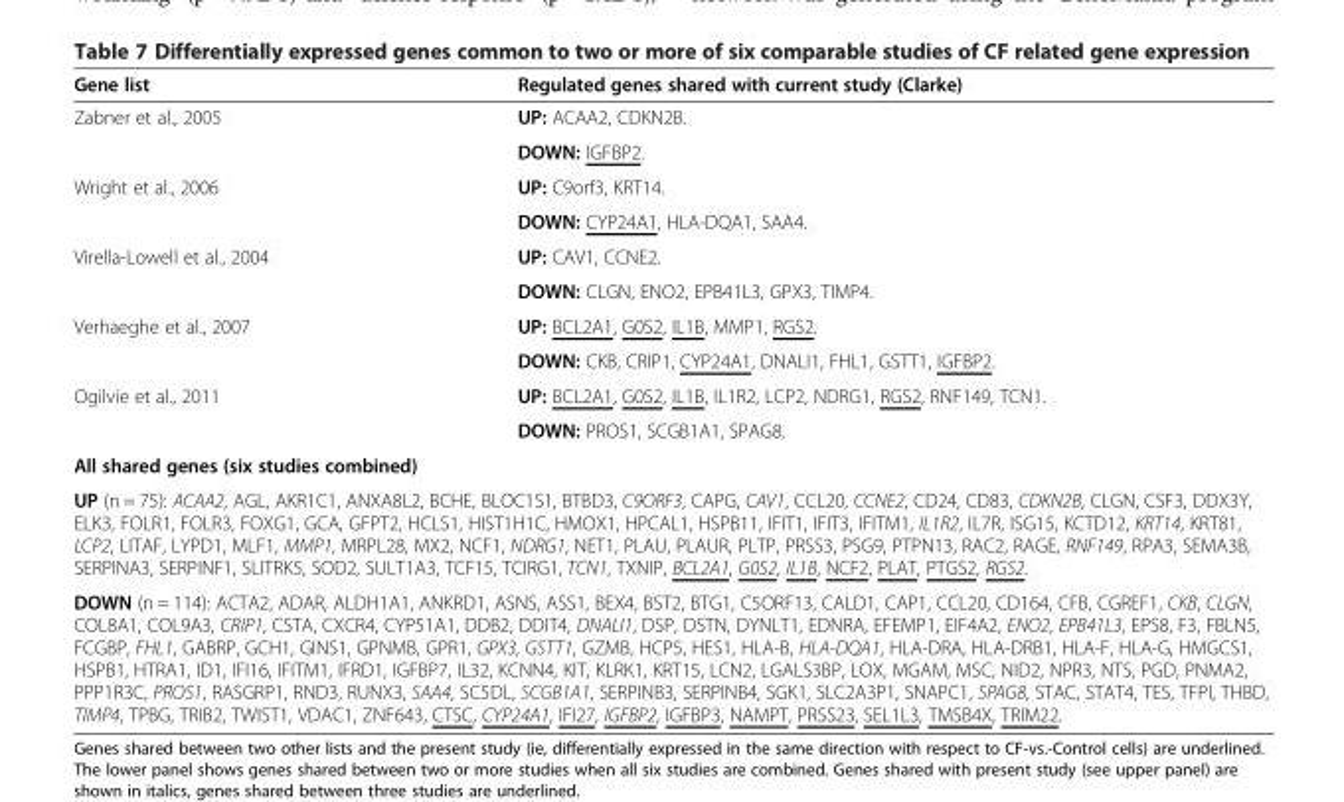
<table><thead><tr><td>Gene list</td><td>Regulated genes shared with current study (Clarke)</td></tr></thead><tbody><tr><td rowspan="2">Zabner et al., 2005</td><td>UP: ACAA2, CDKN2B.</td></tr><tr><td>DOWN: IGFBP2.</td></tr><tr><td rowspan="2">Wright et al., 2006</td><td>UP: C9orf3, KRT14.</td></tr><tr><td>DOWN: CYP24A1, HLA-DQA1, SAA4.</td></tr><tr><td rowspan="2">Virella-Lowell et al., 2004</td><td>UP: CAV1, CCNE2.</td></tr><tr><td>DOWN: CLGN, ENO2, EPB41L3, GPX3, TIMP4.</td></tr><tr><td rowspan="2">Verhaeghe et al., 2007</td><td>UP: BCL2A1, G0S2, IL1B, MMP1, RGS2.</td></tr><tr><td>DOWN: CKB, CRIP1, CYP24A1, DNALI1, FHL1, GSTT1, IGFBP2.</td></tr><tr><td rowspan="2">Ogilvie et al., 2011</td><td>UP: BCL2A1, G0S2, IL1B, IL1R2, LCP2, NDRG1, RGS2, RNF149, TCN1.</td></tr><tr><td>DOWN: PROS1, SCGB1A1, SPAG8.</td></tr><tr><td colspan="2">All shared genes (six studies combined)</td></tr><tr><td colspan="2">UP (n = 75): ACAA2, AGL, AKR1C1, ANXA8L2, BCHE, BLOC1S1, BTBD3, C9ORF3, CAPG, CAV1, CCL20, CCNE2, CD24, CD83, CDKN2B, CLGN, CSF3, DDX3Y, ELK3, FOLR1, FOLR3, FOXG1, GCA, GFPT2, HCLS1, HIST1H1C, HMOX1, HPCAL1, HSPB11, IFIT1, IFIT3, IFITM1, IL1R2, IL7R, ISG15, KCTD12, KRT14, KRT81, LCP2, LITAF, LYPD1, MLF1, MMP1, MRPL28, MX2, NCF1, NDRG1, NET1, PLAU, PLAUR, PLTP, PRSS3, PSG9, PTPN13, RAC2, RAGE, RNF149, RPA3, SEMA3B, SERPINA3, SERPINF1, SLITRK5, SOD2, SULT1A3, TCF15, TCIRG1, TCN1, TXNIP, BCL2A1, G0S2, IL1B, NCF2, PLAT, PTGS2, RGS2.</td></tr><tr><td colspan="2">DOWN (n = 114): ACTA2, ADAR, ALDH1A1, ANKRD1, ASNS, ASS1, BEX4, BST2, BTG1, C5ORF13, CALD1, CAP1, CCL20, CD164, CFB, CGREF1, CKB, CLGN, COL8A1, COL9A3, CRIP1, CSTA, CXCR4, CYP51A1, DDB2, DDIT4, DNALI1, DSP, DSTN, DYNLT1, EDNRA, EFEMP1, EIF4A2, ENO2, EPB41L3, EPS8, F3, FBLN5, FCGBP, FHL1, GABRP, GCH1, GINS1, GPNMB, GPR1, GPX3, GSTT1, GZMB, HCP5, HES1, HLA-B, HLA-DQA1, HLA-DRA, HLA-DRB1, HLA-F, HLA-G, HMGCS1, HSPB1, HTRA1, ID1, IFI16, IFITM1, IFRD1, IGFBP7, IL32, KCNN4, KIT, KLRK1, KRT15, LCN2, LGALS3BP, LOX, MGAM, MSC, NID2, NPR3, NTS, PGD, PNMA2, PPP1R3C, PROS1, RASGRP1, RND3, RUNX3, SAA4, SC5DL, SCGB1A1, SERPINB3, SERPINB4, SGK1, SLC2A3P1, SNAPC1, SPAG8, STAC, STAT4, TES, TFPI, THBD, TIMP4, TPBG, TRIB2, TWIST1, VDAC1, ZNF643, CTSC, CYP24A1, IFI27, IGFBP2, IGFBP3, NAMPT, PRSS23, SEL1L3, TMSB4X, TRIM22.</td></tr></tbody></table>